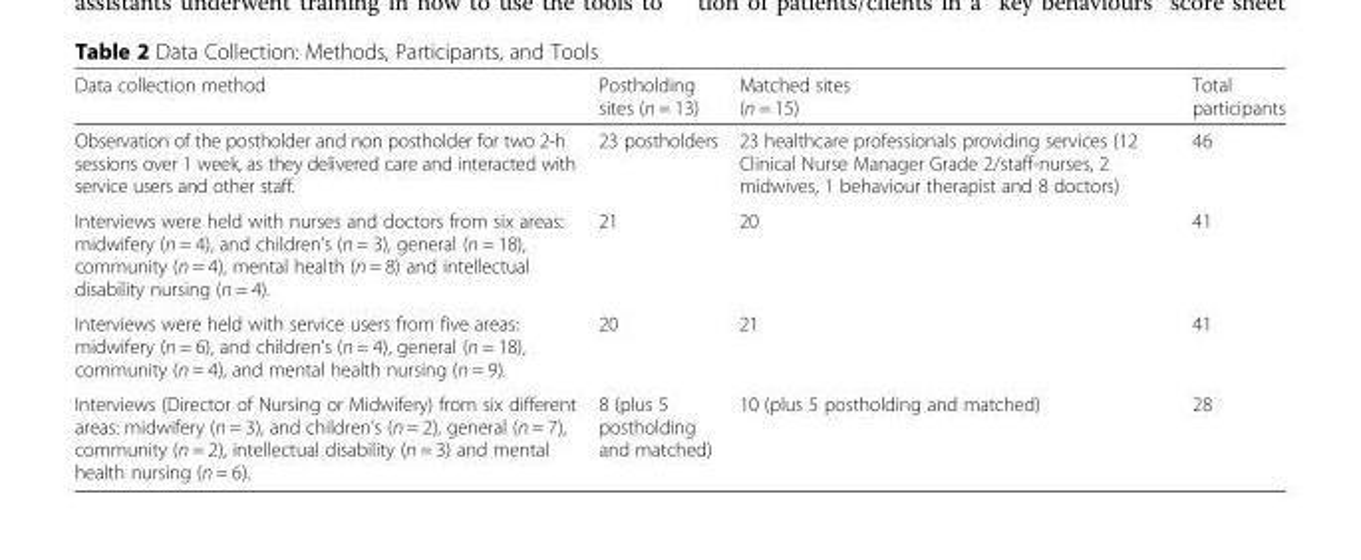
<table><thead><tr><td>Data collection method</td><td>Postholding sites (n = 13)</td><td>Matched sites (n = 15)</td><td>Total participants</td></tr></thead><tbody><tr><td>Observation of the postholder and non postholder for two 2-h sessions over 1 week, as they delivered care and interacted with service users and other staff.</td><td>23 postholders</td><td>23 healthcare professionals providing services (12 Clinical Nurse Manager Grade 2/staff-nurses, 2 midwives, 1 behaviour therapist and 8 doctors)</td><td>46</td></tr><tr><td>Interviews were held with nurses and doctors from six areas: midwifery (n = 4), and children’s (n = 3), general (n = 18), community (n = 4), mental health (n = 8) and intellectual disability nursing (n = 4).</td><td>21</td><td>20</td><td>41</td></tr><tr><td>Interviews were held with service users from five areas: midwifery (n = 6), and children’s (n = 4), general (n = 18), community (n = 4), and mental health nursing (n = 9).</td><td>20</td><td>21</td><td>41</td></tr><tr><td>Interviews (Director of Nursing or Midwifery) from six different areas: midwifery (n = 3), and children’s (n = 2), general (n = 7), community (n = 2), intellectual disability (n = 3) and mental health nursing (n = 6).</td><td>8 (plus 5 postholding and matched)</td><td>10 (plus 5 postholding and matched)</td><td>28</td></tr></tbody></table>